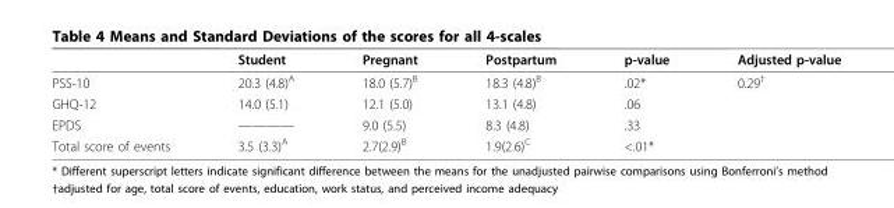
<table><thead><tr><td></td><td>Student</td><td>Pregnant</td><td>Postpartum</td><td>p-value</td><td>Adjusted p-value</td></tr></thead><tbody><tr><td>PSS-10</td><td>20.3 (4.8)<sup>A</sup></td><td>18.0 (5.7)<sup>B</sup></td><td>18.3 (4.8)<sup>B</sup></td><td>.02*</td><td>0.29<sup>†</sup></td></tr><tr><td>GHQ-12</td><td>14.0 (5.1)</td><td>12.1 (5.0)</td><td>13.1 (4.8)</td><td>.06</td><td></td></tr><tr><td>EPDS</td><td>————</td><td>9.0 (5.5)</td><td>8.3 (4.8)</td><td>.33</td><td></td></tr><tr><td>Total score of events</td><td>3.5 (3.3)<sup>A</sup></td><td>2.7(2.9)<sup>B</sup></td><td>1.9(2.6)<sup>C</sup></td><td>&lt;.01*</td><td></td></tr></tbody></table>